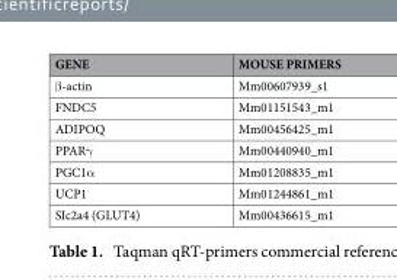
<table><thead><tr><td>GENE</td><td>MOUSE PRIMERS</td></tr></thead><tbody><tr><td>β-actin</td><td>Mm00607939_s1</td></tr><tr><td>FNDC5</td><td>Mm01151543_m1</td></tr><tr><td>ADIPOQ</td><td>Mm00456425_m1</td></tr><tr><td>PPARγ</td><td>Mm00440940_m1</td></tr><tr><td>PGC1α</td><td>Mm01208835_m1</td></tr><tr><td>UCP1</td><td>Mm01244861_m1</td></tr><tr><td>SIc2a4 (GLUT4)</td><td>Mm00436615_m1</td></tr></tbody></table>